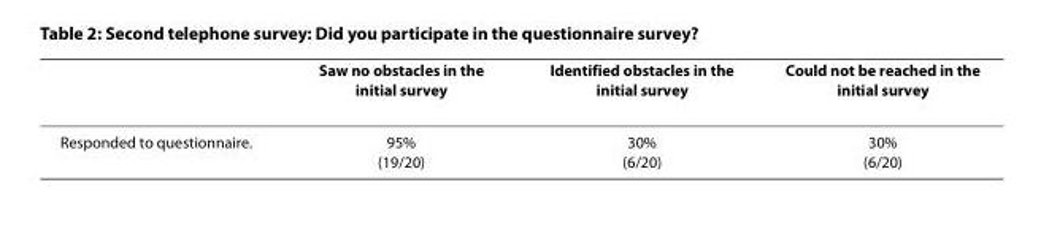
<table><thead><tr><td></td><td>Saw no obstacles in the initial survey</td><td>Identified obstacles in the initial survey</td><td>Could not be reached in the initial survey</td></tr></thead><tbody><tr><td>Responded to questionnaire.</td><td>95% (19/20)</td><td>30% (6/20)</td><td>30% (6/20)</td></tr></tbody></table>